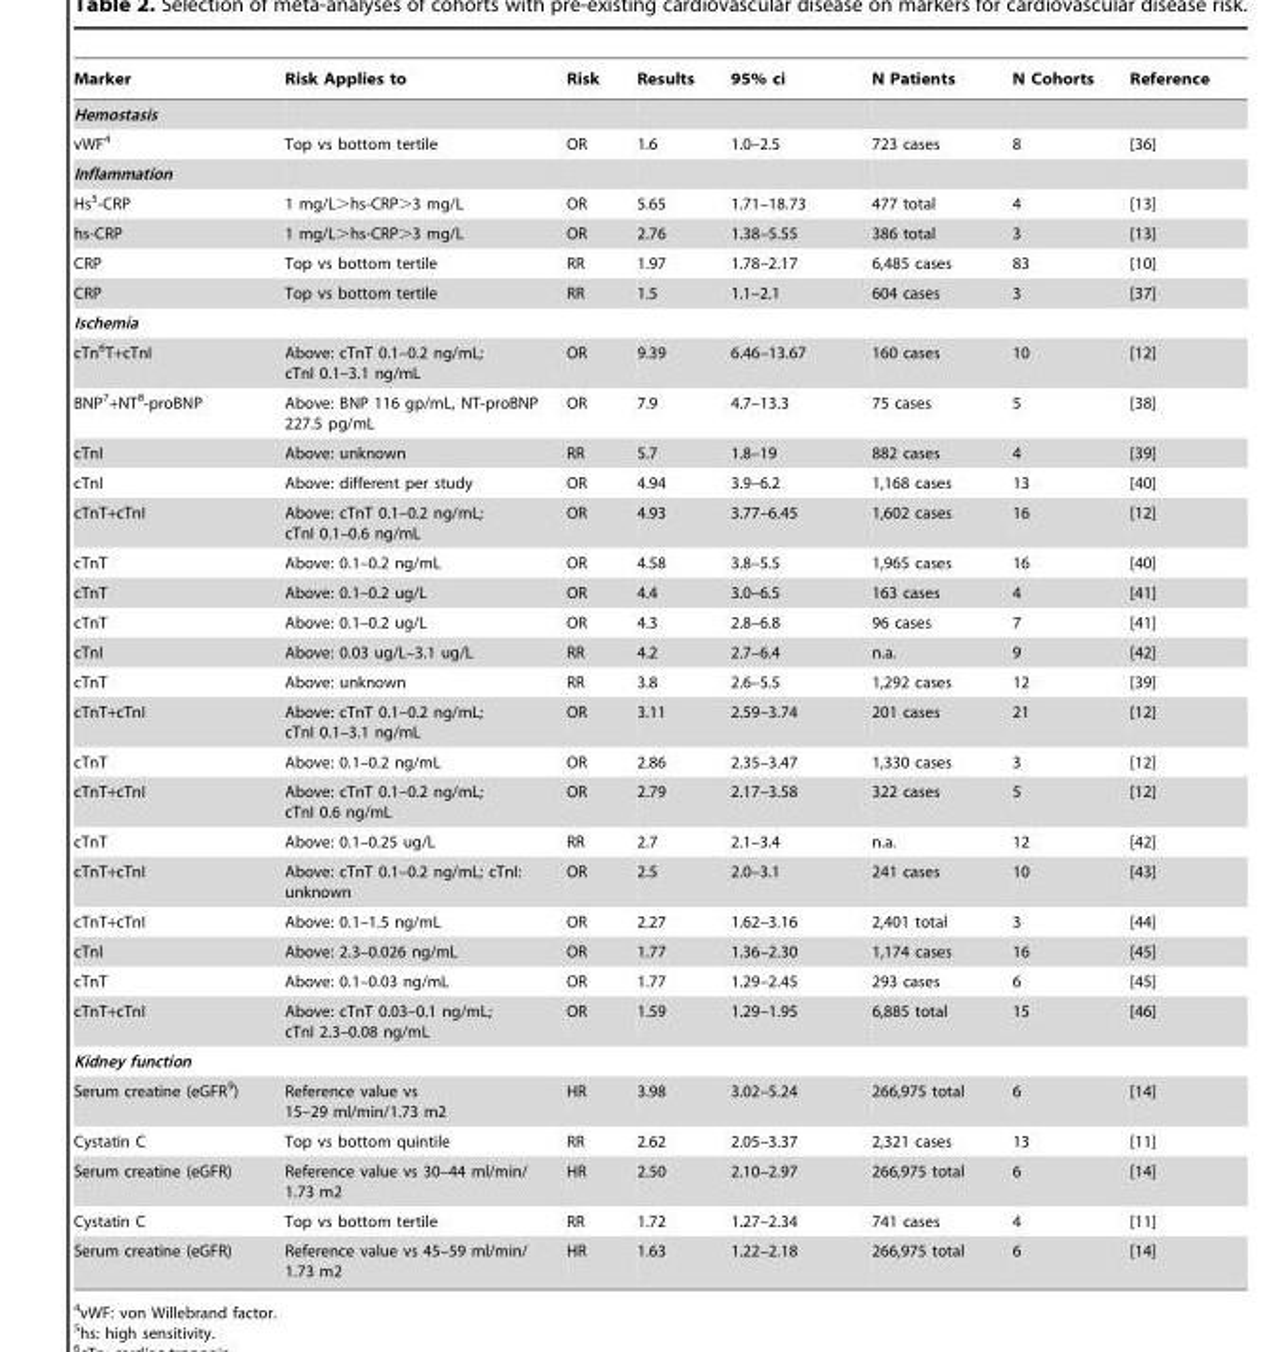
<table><thead><tr><td>Marker</td><td>Risk Applies to</td><td>Risk</td><td>Results</td><td>95% ci</td><td>N Patients</td><td>N Cohorts</td><td>Reference</td></tr></thead><tbody><tr><td colspan="8">Hemostasis</td></tr><tr><td>vWF<sup>4</sup></td><td>Top vs bottom tertile</td><td>OR</td><td>1.6</td><td>1.0–2.5</td><td>723 cases</td><td>8</td><td>[36]</td></tr><tr><td colspan="8">Inflammation</td></tr><tr><td>Hs<sup>5</sup>-CRP</td><td>1 mg/L&gt;hs-CRP&gt;3 mg/L</td><td>OR</td><td>5.65</td><td>1.71–18.73</td><td>477 total</td><td>4</td><td>[13]</td></tr><tr><td>hs-CRP</td><td>1 mg/L&gt;hs-CRP&gt;3 mg/L</td><td>OR</td><td>2.76</td><td>1.38–5.55</td><td>386 total</td><td>3</td><td>[13]</td></tr><tr><td>CRP</td><td>Top vs bottom tertile</td><td>RR</td><td>1.97</td><td>1.78–2.17</td><td>6,485 cases</td><td>83</td><td>[10]</td></tr><tr><td>CRP</td><td>Top vs bottom tertile</td><td>RR</td><td>1.5</td><td>1.1–2.1</td><td>604 cases</td><td>3</td><td>[37]</td></tr><tr><td colspan="8">Ischemia</td></tr><tr><td>cTn<sup>6</sup>T+cTnI</td><td>Above: cTnT 0.1–0.2 ng/mL; cTnI 0.1–3.1 ng/mL</td><td>OR</td><td>9.39</td><td>6.46–13.67</td><td>160 cases</td><td>10</td><td>[12]</td></tr><tr><td>BNP<sup>7</sup>+NT<sup>8</sup>-proBNP</td><td>Above: BNP 116 gp/mL, NT-proBNP 227.5 pg/mL</td><td>OR</td><td>7.9</td><td>4.7–13.3</td><td>75 cases</td><td>5</td><td>[38]</td></tr><tr><td>cTnI</td><td>Above: unknown</td><td>RR</td><td>5.7</td><td>1.8–19</td><td>882 cases</td><td>4</td><td>[39]</td></tr><tr><td>cTnI</td><td>Above: different per study</td><td>OR</td><td>4.94</td><td>3.9–6.2</td><td>1,168 cases</td><td>13</td><td>[40]</td></tr><tr><td>cTnT+cTnI</td><td>Above: cTnT 0.1–0.2 ng/mL; cTnI 0.1–0.6 ng/mL</td><td>OR</td><td>4.93</td><td>3.77–6.45</td><td>1,602 cases</td><td>16</td><td>[12]</td></tr><tr><td>cTnT</td><td>Above: 0.1–0.2 ng/mL</td><td>OR</td><td>4.58</td><td>3.8–5.5</td><td>1,965 cases</td><td>16</td><td>[40]</td></tr><tr><td>cTnT</td><td>Above: 0.1–0.2 ug/L</td><td>OR</td><td>4.4</td><td>3.0–6.5</td><td>163 cases</td><td>4</td><td>[41]</td></tr><tr><td>cTnT</td><td>Above: 0.1–0.2 ug/L</td><td>OR</td><td>4.3</td><td>2.8–6.8</td><td>96 cases</td><td>7</td><td>[41]</td></tr><tr><td>cTnI</td><td>Above: 0.03 ug/L–3.1 ug/L</td><td>RR</td><td>4.2</td><td>2.7–6.4</td><td>n.a.</td><td>9</td><td>[42]</td></tr><tr><td>cTnT</td><td>Above: unknown</td><td>RR</td><td>3.8</td><td>2.6–5.5</td><td>1,292 cases</td><td>12</td><td>[39]</td></tr><tr><td>cTnT+cTnI</td><td>Above: cTnT 0.1–0.2 ng/mL; cTnI 0.1–3.1 ng/mL</td><td>OR</td><td>3.11</td><td>2.59–3.74</td><td>201 cases</td><td>21</td><td>[12]</td></tr><tr><td>cTnT</td><td>Above: 0.1–0.2 ng/mL</td><td>OR</td><td>2.86</td><td>2.35–3.47</td><td>1,330 cases</td><td>3</td><td>[12]</td></tr><tr><td>cTnT+cTnI</td><td>Above: cTnT 0.1–0.2 ng/mL; cTnI 0.6 ng/mL</td><td>OR</td><td>2.79</td><td>2.17–3.58</td><td>322 cases</td><td>5</td><td>[12]</td></tr><tr><td>cTnT</td><td>Above: 0.1–0.25 ug/L</td><td>RR</td><td>2.7</td><td>2.1–3.4</td><td>n.a.</td><td>12</td><td>[42]</td></tr><tr><td>cTnT+cTnI</td><td>Above: cTnT 0.1–0.2 ng/mL; cTnI: unknown</td><td>OR</td><td>2.5</td><td>2.0–3.1</td><td>241 cases</td><td>10</td><td>[43]</td></tr><tr><td>cTnT+cTnI</td><td>Above: 0.1–1.5 ng/mL</td><td>OR</td><td>2.27</td><td>1.62–3.16</td><td>2,401 total</td><td>3</td><td>[44]</td></tr><tr><td>cTnI</td><td>Above: 2.3–0.026 ng/mL</td><td>OR</td><td>1.77</td><td>1.36–2.30</td><td>1,174 cases</td><td>16</td><td>[45]</td></tr><tr><td>cTnT</td><td>Above: 0.1–0.03 ng/mL</td><td>OR</td><td>1.77</td><td>1.29–2.45</td><td>293 cases</td><td>6</td><td>[45]</td></tr><tr><td>cTnT+cTnI</td><td>Above: cTnT 0.03–0.1 ng/mL; cTnI 2.3–0.08 ng/mL</td><td>OR</td><td>1.59</td><td>1.29–1.95</td><td>6,885 total</td><td>15</td><td>[46]</td></tr><tr><td colspan="8">Kidney function</td></tr><tr><td>Serum creatine (eGFR<sup>9</sup>)</td><td>Reference value vs 15–29 ml/min/1.73 m2</td><td>HR</td><td>3.98</td><td>3.02–5.24</td><td>266,975 total</td><td>6</td><td>[14]</td></tr><tr><td>Cystatin C</td><td>Top vs bottom quintile</td><td>RR</td><td>2.62</td><td>2.05–3.37</td><td>2,321 cases</td><td>13</td><td>[11]</td></tr><tr><td>Serum creatine (eGFR)</td><td>Reference value vs 30–44 ml/min/ 1.73 m2</td><td>HR</td><td>2.50</td><td>2.10–2.97</td><td>266,975 total</td><td>6</td><td>[14]</td></tr><tr><td>Cystatin C</td><td>Top vs bottom tertile</td><td>RR</td><td>1.72</td><td>1.27–2.34</td><td>741 cases</td><td>4</td><td>[11]</td></tr><tr><td>Serum creatine (eGFR)</td><td>Reference value vs 45–59 ml/min/ 1.73 m2</td><td>HR</td><td>1.63</td><td>1.22–2.18</td><td>266,975 total</td><td>6</td><td>[14]</td></tr></tbody></table>